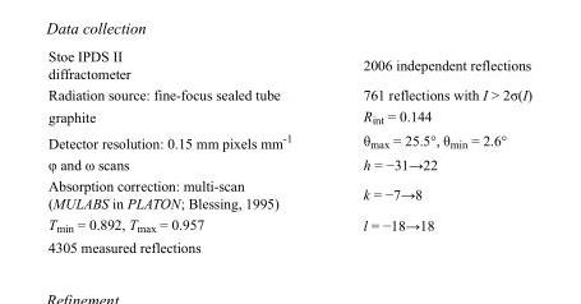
<table><tbody><tr><td>Stoe IPDS II diffractometer</td><td>2006 independent reflections</td></tr><tr><td>Radiation source: fine-focus sealed tube</td><td>761 reflections with I &gt; 2σ(I)</td></tr><tr><td>graphite</td><td>R<sub>int</sub> = 0.144</td></tr><tr><td>Detector resolution: 0.15 mm pixels mm<sup>-1</sup></td><td>θ<sub>max</sub> = 25.5°, θ<sub>min</sub> = 2.6°</td></tr><tr><td>φ and ω scans</td><td>h = −31→22</td></tr><tr><td>Absorption correction: multi-scan (MULABS in PLATON; Blessing, 1995)</td><td>k = −7→8</td></tr><tr><td>T<sub>min</sub> = 0.892, T<sub>max</sub> = 0.957</td><td>l = −18→18</td></tr><tr><td>4305 measured reflections</td><td></td></tr></tbody></table>